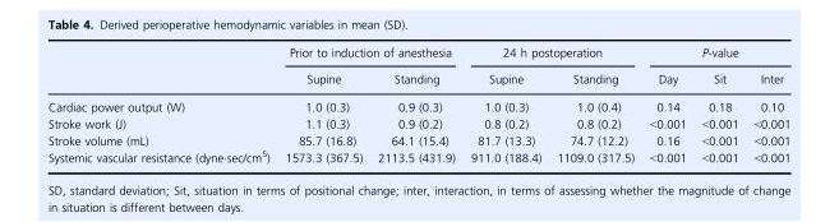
<table><thead><tr><td rowspan="2"></td><td colspan="2">Prior to induction of anesthesia</td><td colspan="2">24 h postoperation</td><td colspan="3">P-value</td></tr><tr><td>Supine</td><td>Standing</td><td>Supine</td><td>Standing</td><td>Day</td><td>Sit</td><td>Inter</td></tr></thead><tbody><tr><td>Cardiac power output (W)</td><td>1.0 (0.3)</td><td>0.9 (0.3)</td><td>1.0 (0.3)</td><td>1.0 (0.4)</td><td>0.14</td><td>0.18</td><td>0.10</td></tr><tr><td>Stroke work (J)</td><td>1.1 (0.3)</td><td>0.9 (0.2)</td><td>0.8 (0.2)</td><td>0.8 (0.2)</td><td>&lt;0.001</td><td>&lt;0.001</td><td>&lt;0.001</td></tr><tr><td>Stroke volume (mL)</td><td>85.7 (16.8)</td><td>64.1 (15.4)</td><td>81.7 (13.3)</td><td>74.7 (12.2)</td><td>0.16</td><td>&lt;0.001</td><td>&lt;0.001</td></tr><tr><td>Systemic vascular resistance (dyne·sec/cm<sup>5</sup>)</td><td>1573.3 (367.5)</td><td>2113.5 (431.9)</td><td>911.0 (188.4)</td><td>1109.0 (317.5)</td><td>&lt;0.001</td><td>&lt;0.001</td><td>&lt;0.001</td></tr></tbody></table>